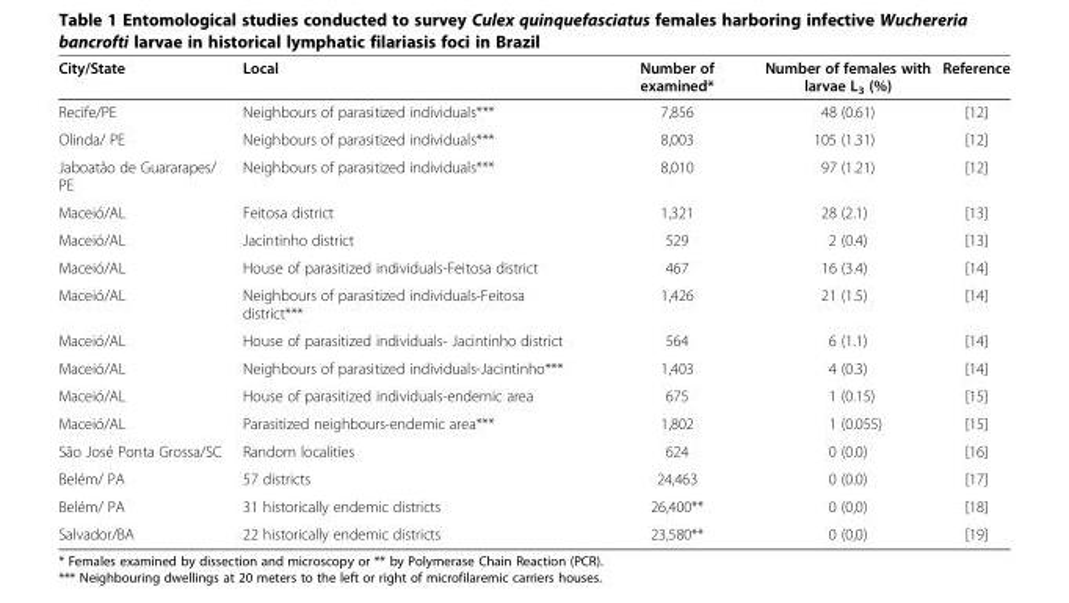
<table><thead><tr><td>City/State</td><td>Local</td><td>Number of examined*</td><td>Number of females with larvae L<sub>3</sub> (%)</td><td>Reference</td></tr></thead><tbody><tr><td>Recife/PE</td><td>Neighbours of parasitized individuals***</td><td>7,856</td><td>48 (0.61)</td><td>[12]</td></tr><tr><td>Olinda/ PE</td><td>Neighbours of parasitized individuals***</td><td>8,003</td><td>105 (1.31)</td><td>[12]</td></tr><tr><td>Jaboatão de Guararapes/ PE</td><td>Neighbours of parasitized individuals***</td><td>8,010</td><td>97 (1.21)</td><td>[12]</td></tr><tr><td>Maceió/AL</td><td>Feitosa district</td><td>1,321</td><td>28 (2.1)</td><td>[13]</td></tr><tr><td>Maceió/AL</td><td>Jacintinho district</td><td>529</td><td>2 (0.4)</td><td>[13]</td></tr><tr><td>Maceió/AL</td><td>House of parasitized individuals-Feitosa district</td><td>467</td><td>16 (3.4)</td><td>[14]</td></tr><tr><td>Maceió/AL</td><td>Neighbours of parasitized individuals-Feitosa district***</td><td>1,426</td><td>21 (1.5)</td><td>[14]</td></tr><tr><td>Maceió/AL</td><td>House of parasitized individuals- Jacintinho district</td><td>564</td><td>6 (1.1)</td><td>[14]</td></tr><tr><td>Maceió/AL</td><td>Neighbours of parasitized individuals-Jacintinho***</td><td>1,403</td><td>4 (0.3)</td><td>[14]</td></tr><tr><td>Maceió/AL</td><td>House of parasitized individuals-endemic area</td><td>675</td><td>1 (0.15)</td><td>[15]</td></tr><tr><td>Maceió/AL</td><td>Parasitized neighbours-endemic area***</td><td>1,802</td><td>1 (0.055)</td><td>[15]</td></tr><tr><td>São José Ponta Grossa/SC</td><td>Random localities</td><td>624</td><td>0 (0.0)</td><td>[16]</td></tr><tr><td>Belém/ PA</td><td>57 districts</td><td>24,463</td><td>0 (0.0)</td><td>[17]</td></tr><tr><td>Belém/ PA</td><td>31 historically endemic districts</td><td>26,400**</td><td>0 (0,0)</td><td>[18]</td></tr><tr><td>Salvador/BA</td><td>22 historically endemic districts</td><td>23,580**</td><td>0 (0,0)</td><td>[19]</td></tr></tbody></table>